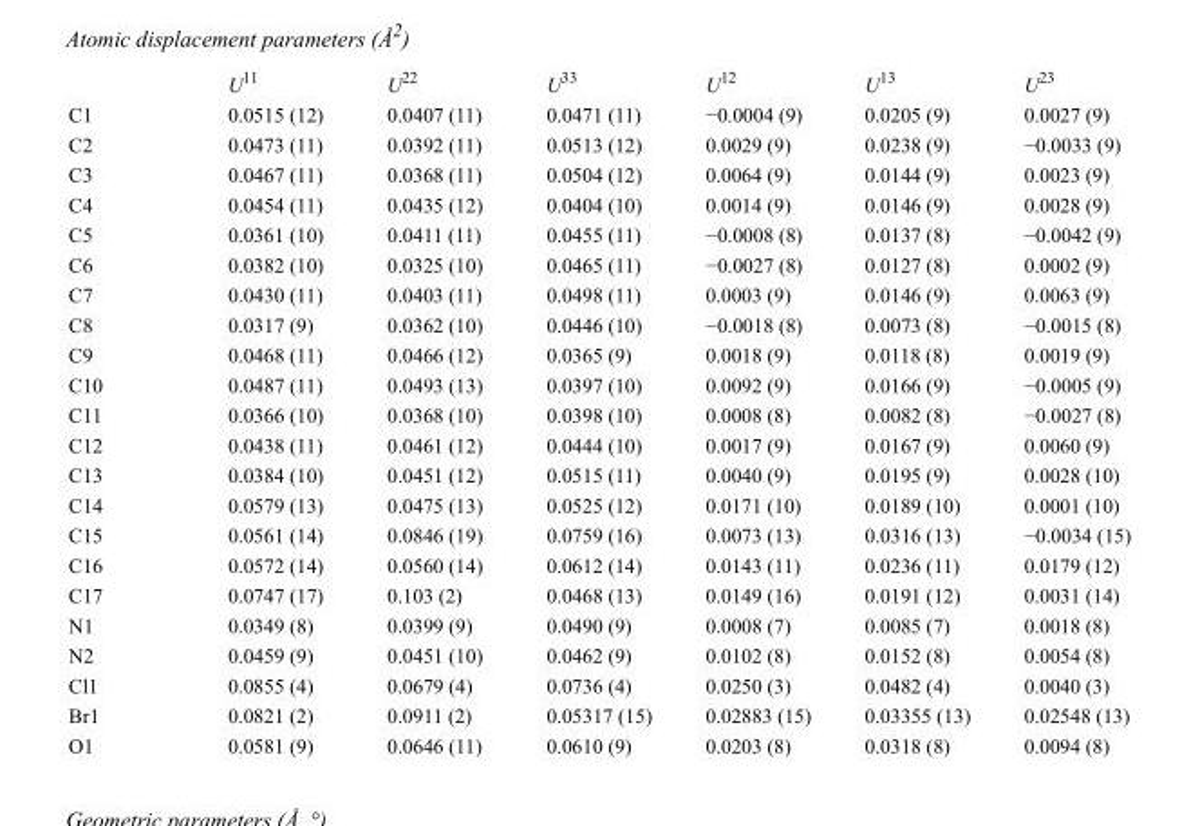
<table><thead><tr><td></td><td>U<sup>11</sup></td><td>U<sup>22</sup></td><td>U<sup>33</sup></td><td>U<sup>12</sup></td><td>U<sup>13</sup></td><td>U<sup>23</sup></td></tr></thead><tbody><tr><td>C1</td><td>0.0515 (12)</td><td>0.0407 (11)</td><td>0.0471 (11)</td><td>−0.0004 (9)</td><td>0.0205 (9)</td><td>0.0027 (9)</td></tr><tr><td>C2</td><td>0.0473 (11)</td><td>0.0392 (11)</td><td>0.0513 (12)</td><td>0.0029 (9)</td><td>0.0238 (9)</td><td>−0.0033 (9)</td></tr><tr><td>C3</td><td>0.0467 (11)</td><td>0.0368 (11)</td><td>0.0504 (12)</td><td>0.0064 (9)</td><td>0.0144 (9)</td><td>0.0023 (9)</td></tr><tr><td>C4</td><td>0.0454 (11)</td><td>0.0435 (12)</td><td>0.0404 (10)</td><td>0.0014 (9)</td><td>0.0146 (9)</td><td>0.0028 (9)</td></tr><tr><td>C5</td><td>0.0361 (10)</td><td>0.0411 (11)</td><td>0.0455 (11)</td><td>−0.0008 (8)</td><td>0.0137 (8)</td><td>−0.0042 (9)</td></tr><tr><td>C6</td><td>0.0382 (10)</td><td>0.0325 (10)</td><td>0.0465 (11)</td><td>−0.0027 (8)</td><td>0.0127 (8)</td><td>0.0002 (9)</td></tr><tr><td>C7</td><td>0.0430 (11)</td><td>0.0403 (11)</td><td>0.0498 (11)</td><td>0.0003 (9)</td><td>0.0146 (9)</td><td>0.0063 (9)</td></tr><tr><td>C8</td><td>0.0317 (9)</td><td>0.0362 (10)</td><td>0.0446 (10)</td><td>−0.0018 (8)</td><td>0.0073 (8)</td><td>−0.0015 (8)</td></tr><tr><td>C9</td><td>0.0468 (11)</td><td>0.0466 (12)</td><td>0.0365 (9)</td><td>0.0018 (9)</td><td>0.0118 (8)</td><td>0.0019 (9)</td></tr><tr><td>C10</td><td>0.0487 (11)</td><td>0.0493 (13)</td><td>0.0397 (10)</td><td>0.0092 (9)</td><td>0.0166 (9)</td><td>−0.0005 (9)</td></tr><tr><td>C11</td><td>0.0366 (10)</td><td>0.0368 (10)</td><td>0.0398 (10)</td><td>0.0008 (8)</td><td>0.0082 (8)</td><td>−0.0027 (8)</td></tr><tr><td>C12</td><td>0.0438 (11)</td><td>0.0461 (12)</td><td>0.0444 (10)</td><td>0.0017 (9)</td><td>0.0167 (9)</td><td>0.0060 (9)</td></tr><tr><td>C13</td><td>0.0384 (10)</td><td>0.0451 (12)</td><td>0.0515 (11)</td><td>0.0040 (9)</td><td>0.0195 (9)</td><td>0.0028 (10)</td></tr><tr><td>C14</td><td>0.0579 (13)</td><td>0.0475 (13)</td><td>0.0525 (12)</td><td>0.0171 (10)</td><td>0.0189 (10)</td><td>0.0001 (10)</td></tr><tr><td>C15</td><td>0.0561 (14)</td><td>0.0846 (19)</td><td>0.0759 (16)</td><td>0.0073 (13)</td><td>0.0316 (13)</td><td>−0.0034 (15)</td></tr><tr><td>C16</td><td>0.0572 (14)</td><td>0.0560 (14)</td><td>0.0612 (14)</td><td>0.0143 (11)</td><td>0.0236 (11)</td><td>0.0179 (12)</td></tr><tr><td>C17</td><td>0.0747 (17)</td><td>0.103 (2)</td><td>0.0468 (13)</td><td>0.0149 (16)</td><td>0.0191 (12)</td><td>0.0031 (14)</td></tr><tr><td>N1</td><td>0.0349 (8)</td><td>0.0399 (9)</td><td>0.0490 (9)</td><td>0.0008 (7)</td><td>0.0085 (7)</td><td>0.0018 (8)</td></tr><tr><td>N2</td><td>0.0459 (9)</td><td>0.0451 (10)</td><td>0.0462 (9)</td><td>0.0102 (8)</td><td>0.0152 (8)</td><td>0.0054 (8)</td></tr><tr><td>Cl1</td><td>0.0855 (4)</td><td>0.0679 (4)</td><td>0.0736 (4)</td><td>0.0250 (3)</td><td>0.0482 (4)</td><td>0.0040 (3)</td></tr><tr><td>Br1</td><td>0.0821 (2)</td><td>0.0911 (2)</td><td>0.05317 (15)</td><td>0.02883 (15)</td><td>0.03355 (13)</td><td>0.02548 (13)</td></tr><tr><td>O1</td><td>0.0581 (9)</td><td>0.0646 (11)</td><td>0.0610 (9)</td><td>0.0203 (8)</td><td>0.0318 (8)</td><td>0.0094 (8)</td></tr></tbody></table>